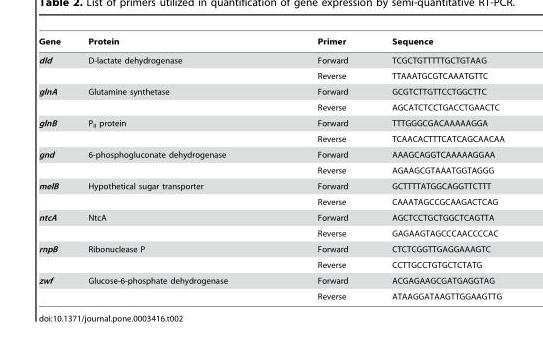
<table><thead><tr><td>Gene</td><td>Protein</td><td>Primer</td><td>Sequence</td></tr></thead><tbody><tr><td rowspan="2">dld</td><td>D-lactate dehydrogenase</td><td>Forward</td><td>TCGCTGTTTTTGCTGTAAG</td></tr><tr><td></td><td>Reverse</td><td>TTAAATGCGTCAAATGTTC</td></tr><tr><td rowspan="2">glnA</td><td>Glutamine synthetase</td><td>Forward</td><td>GCGTCTTGTTCCTGGCTTC</td></tr><tr><td></td><td>Reverse</td><td>AGCATCTCCTGACCTGAACTC</td></tr><tr><td rowspan="2">glnB</td><td>P<sub>II</sub> protein</td><td>Forward</td><td>TTTGGGCGACAAAAAGGA</td></tr><tr><td></td><td>Reverse</td><td>TCAACACTTTCATCAGCAACAA</td></tr><tr><td rowspan="2">gnd</td><td>6-phosphogluconate dehydrogenase</td><td>Forward</td><td>AAAGCAGGTCAAAAAGGAA</td></tr><tr><td></td><td>Reverse</td><td>AGAAGCGTAAATGGTAGGG</td></tr><tr><td rowspan="2">melB</td><td>Hypothetical sugar transporter</td><td>Forward</td><td>GCTTTTATGGCAGGTTCTTT</td></tr><tr><td></td><td>Reverse</td><td>CAAATAGCCGCAAGACTCAG</td></tr><tr><td rowspan="2">ntcA</td><td>NtcA</td><td>Forward</td><td>AGCTCCTGCTGGCTCAGTTA</td></tr><tr><td></td><td>Reverse</td><td>GAGAAGTAGCCCAACCCCAC</td></tr><tr><td rowspan="2">rnpB</td><td>Ribonuclease P</td><td>Forward</td><td>CTCTCGGTTGAGGAAAGTC</td></tr><tr><td></td><td>Reverse</td><td>CCTTGCCTGTGCTCTATG</td></tr><tr><td rowspan="2">zwf</td><td>Glucose-6-phosphate dehydrogenase</td><td>Forward</td><td>ACGAGAAGCGATGAGGTAG</td></tr><tr><td></td><td>Reverse</td><td>ATAAGGATAAGTTGGAAGTTG</td></tr></tbody></table>